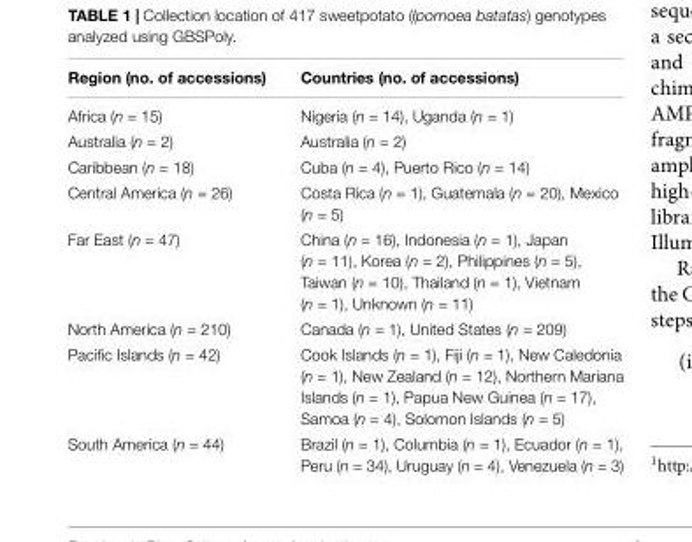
<table><thead><tr><td>Region (no. of accessions)</td><td>Countries (no. of accessions)</td></tr></thead><tbody><tr><td>Africa (n = 15)</td><td>Nigeria (n = 14), Uganda (n = 1)</td></tr><tr><td>Australia (n = 2)</td><td>Australia (n = 2)</td></tr><tr><td>Caribbean (n = 18)</td><td>Cuba (n = 4), Puerto Rico (n = 14)</td></tr><tr><td>Central America (n = 26)</td><td>Costa Rica (n = 1), Guatemala (n = 20), Mexico (n = 5)</td></tr><tr><td>Far East (n = 47)</td><td>China (n = 16), Indonesia (n = 1), Japan (n = 11), Korea (n = 2), Philippines (n = 5), Taiwan (n = 10), Thailand (n = 1), Vietnam (n = 1), Unknown (n = 11)</td></tr><tr><td>North America (n = 210)</td><td>Canada (n = 1), United States (n = 209)</td></tr><tr><td>Pacific Islands (n = 42)</td><td>Cook Islands (n = 1), Fiji (n = 1), New Caledonia (n = 1), New Zealand (n = 12), Northern Mariana Islands (n = 1), Papua New Guinea (n = 17), Samoa (n = 4), Solomon Islands (n = 5)</td></tr><tr><td>South America (n = 44)</td><td>Brazil (n = 1), Columbia (n = 1), Ecuador (n = 1), Peru (n = 34), Uruguay (n = 4), Venezuela (n = 3)</td></tr></tbody></table>